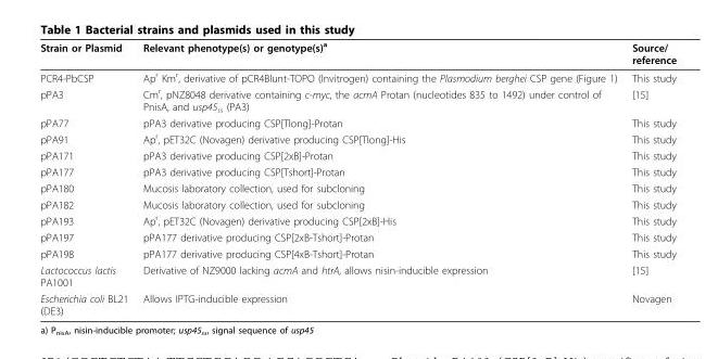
<table><thead><tr><td>Strain or Plasmid</td><td>Relevant phenotype(s) or genotype(s)<sup>a</sup></td><td>Source/ reference</td></tr></thead><tbody><tr><td>PCR4-PbCSP</td><td>Ap<sup>r</sup> Km<sup>r</sup>, derivative of pCR4Blunt-TOPO (Invitrogen) containing the Plasmodium berghei CSP gene (Figure 1)</td><td>This study</td></tr><tr><td>pPA3</td><td>Cm<sup>r</sup>, pNZ8048 derivative containing c-myc, the acmA Protan (nucleotides 835 to 1492) under control of PnisA, and usp45<sub>ss</sub> (PA3)</td><td>[15]</td></tr><tr><td>pPA77</td><td>pPA3 derivative producing CSP[Tlong]-Protan</td><td>This study</td></tr><tr><td>pPA91</td><td>Ap<sup>r</sup>, pET32C (Novagen) derivative producing CSP[Tlong]-His</td><td>This study</td></tr><tr><td>pPA171</td><td>pPA3 derivative producing CSP[2xB]-Protan</td><td>This study</td></tr><tr><td>pPA177</td><td>pPA3 derivative producing CSP[Tshort]-Protan</td><td>This study</td></tr><tr><td>pPA180</td><td>Mucosis laboratory collection, used for subcloning</td><td>This study</td></tr><tr><td>pPA182</td><td>Mucosis laboratory collection, used for subcloning</td><td>This study</td></tr><tr><td>pPA193</td><td>Ap<sup>r</sup>, pET32C (Novagen) derivative producing CSP[2xB]-His</td><td>This study</td></tr><tr><td>pPA197</td><td>pPA177 derivative producing CSP[2xB-Tshort]-Protan</td><td>This study</td></tr><tr><td>pPA198</td><td>pPA177 derivative producing CSP[4xB-Tshort]-Protan</td><td>This study</td></tr><tr><td>Lactococcus lactis PA1001</td><td>Derivative of NZ9000 lacking acmA and htrA, allows nisin-inducible expression</td><td>[15]</td></tr><tr><td>Escherichia coli BL21 (DE3)</td><td>Allows IPTG-inducible expression</td><td>Novagen</td></tr></tbody></table>